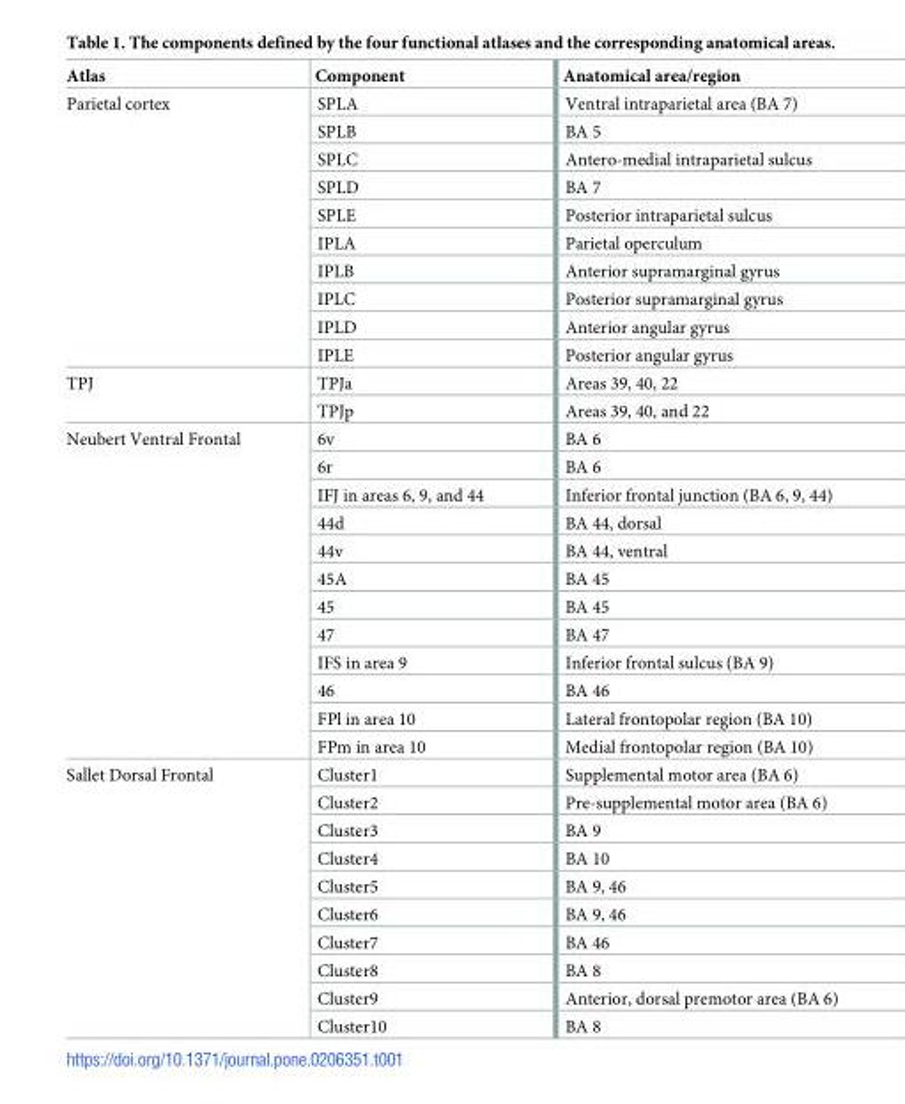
<table><thead><tr><td>Atlas</td><td>Component</td><td>Anatomical area/region</td></tr></thead><tbody><tr><td rowspan="10">Parietal cortex</td><td>SPLA</td><td>Ventral intraparietal area (BA 7)</td></tr><tr><td>SPLB</td><td>BA 5</td></tr><tr><td>SPLC</td><td>Antero-medial intraparietal sulcus</td></tr><tr><td>SPLD</td><td>BA 7</td></tr><tr><td>SPLE</td><td>Posterior intraparietal sulcus</td></tr><tr><td>IPLA</td><td>Parietal operculum</td></tr><tr><td>IPLB</td><td>Anterior supramarginal gyrus</td></tr><tr><td>IPLC</td><td>Posterior supramarginal gyrus</td></tr><tr><td>IPLD</td><td>Anterior angular gyrus</td></tr><tr><td>IPLE</td><td>Posterior angular gyrus</td></tr><tr><td rowspan="2">TPJ</td><td>TPJa</td><td>Areas 39, 40, 22</td></tr><tr><td>TPJp</td><td>Areas 39, 40, and 22</td></tr><tr><td rowspan="12">Neubert Ventral Frontal</td><td>6v</td><td>BA 6</td></tr><tr><td>6r</td><td>BA 6</td></tr><tr><td>IFJ in areas 6, 9, and 44</td><td>Inferior frontal junction (BA 6, 9, 44)</td></tr><tr><td>44d</td><td>BA 44, dorsal</td></tr><tr><td>44v</td><td>BA 44, ventral</td></tr><tr><td>45A</td><td>BA 45</td></tr><tr><td>45</td><td>BA 45</td></tr><tr><td>47</td><td>BA 47</td></tr><tr><td>IFS in area 9</td><td>Inferior frontal sulcus (BA 9)</td></tr><tr><td>46</td><td>BA 46</td></tr><tr><td>FPl in area 10</td><td>Lateral frontopolar region (BA 10)</td></tr><tr><td>FPm in area 10</td><td>Medial frontopolar region (BA 10)</td></tr><tr><td rowspan="10">Sallet Dorsal Frontal</td><td>Cluster1</td><td>Supplemental motor area (BA 6)</td></tr><tr><td>Cluster2</td><td>Pre-supplemental motor area (BA 6)</td></tr><tr><td>Cluster3</td><td>BA 9</td></tr><tr><td>Cluster4</td><td>BA 10</td></tr><tr><td>Cluster5</td><td>BA 9, 46</td></tr><tr><td>Cluster6</td><td>BA 9, 46</td></tr><tr><td>Cluster7</td><td>BA 46</td></tr><tr><td>Cluster8</td><td>BA 8</td></tr><tr><td>Cluster9</td><td>Anterior, dorsal premotor area (BA 6)</td></tr><tr><td>Cluster10</td><td>BA 8</td></tr></tbody></table>